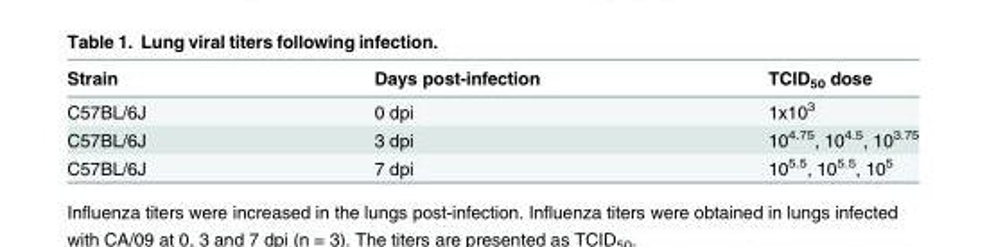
<table><thead><tr><td>Strain</td><td>Days post-infection</td><td>TCID<sub>50</sub> dose</td></tr></thead><tbody><tr><td>C57BL/6J</td><td>0 dpi</td><td>1x10<sup>3</sup></td></tr><tr><td>C57BL/6J</td><td>3 dpi</td><td>10<sup>4.75</sup>, 10<sup>4.5</sup>, 10<sup>3.75</sup></td></tr><tr><td>C57BL/6J</td><td>7 dpi</td><td>10<sup>5.5</sup>, 10<sup>5.5</sup>, 10<sup>5</sup></td></tr></tbody></table>